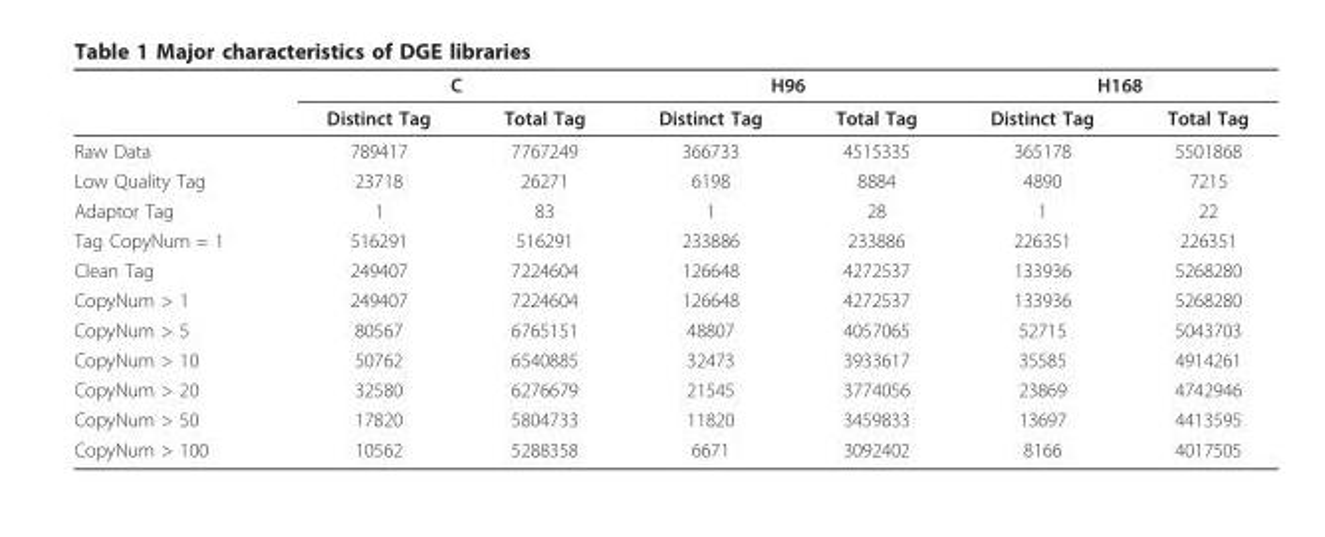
<table><thead><tr><td rowspan="2"></td><td colspan="2">C</td><td colspan="2">H96</td><td colspan="2">H168</td></tr><tr><td>Distinct Tag</td><td>Total Tag</td><td>Distinct Tag</td><td>Total Tag</td><td>Distinct Tag</td><td>Total Tag</td></tr></thead><tbody><tr><td>Raw Data</td><td>789417</td><td>7767249</td><td>366733</td><td>4515335</td><td>365178</td><td>5501868</td></tr><tr><td>Low Quality Tag</td><td>23718</td><td>26271</td><td>6198</td><td>8884</td><td>4890</td><td>7215</td></tr><tr><td>Adaptor Tag</td><td>1</td><td>83</td><td>1</td><td>28</td><td>1</td><td>22</td></tr><tr><td>Tag CopyNum = 1</td><td>516291</td><td>516291</td><td>233886</td><td>233886</td><td>226351</td><td>226351</td></tr><tr><td>Clean Tag</td><td>249407</td><td>7224604</td><td>126648</td><td>4272537</td><td>133936</td><td>5268280</td></tr><tr><td>CopyNum &gt; 1</td><td>249407</td><td>7224604</td><td>126648</td><td>4272537</td><td>133936</td><td>5268280</td></tr><tr><td>CopyNum &gt; 5</td><td>80567</td><td>6765151</td><td>48807</td><td>4057065</td><td>52715</td><td>5043703</td></tr><tr><td>CopyNum &gt; 10</td><td>50762</td><td>6540885</td><td>32473</td><td>3933617</td><td>35585</td><td>4914261</td></tr><tr><td>CopyNum &gt; 20</td><td>32580</td><td>6276679</td><td>21545</td><td>3774056</td><td>23869</td><td>4742946</td></tr><tr><td>CopyNum &gt; 50</td><td>17820</td><td>5804733</td><td>11820</td><td>3459833</td><td>13697</td><td>4413595</td></tr><tr><td>CopyNum &gt; 100</td><td>10562</td><td>5288358</td><td>6671</td><td>3092402</td><td>8166</td><td>4017505</td></tr></tbody></table>